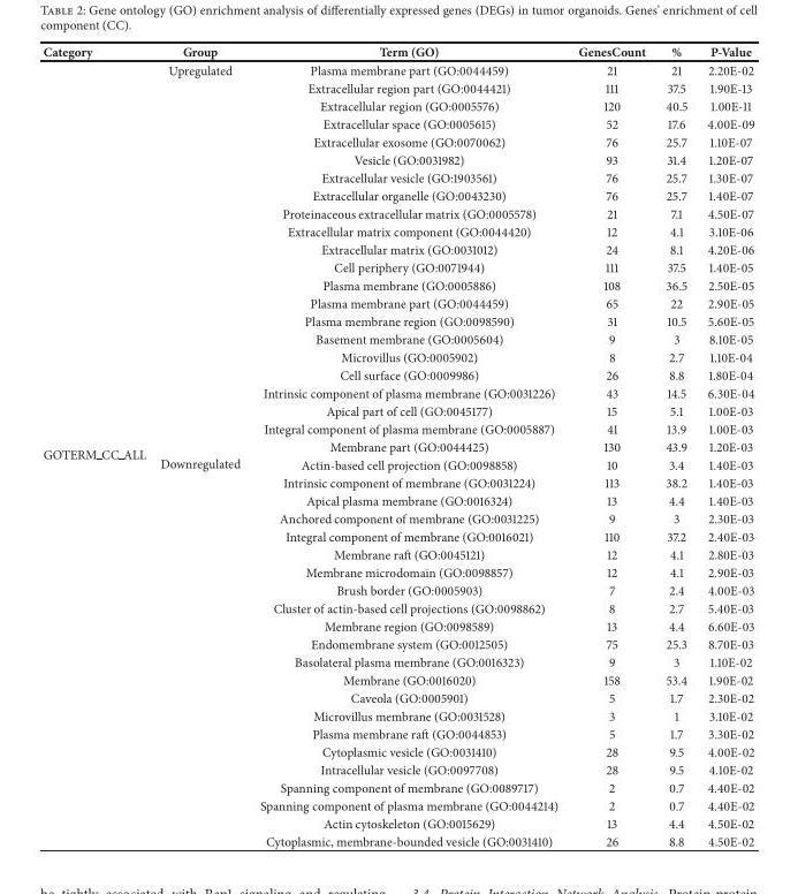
<table><thead><tr><td>Category</td><td>Group</td><td>Term (GO)</td><td>GenesCount</td><td>%</td><td>P-Value</td></tr></thead><tbody><tr><td rowspan="44">GOTERM <sub>CC</sub> ALL</td><td>Upregulated</td><td>Plasma membrane part (GO:0044459)</td><td>21</td><td>21</td><td>2.20E-02</td></tr><tr><td rowspan="43">Downregulated</td><td>Extracellular region part (GO:0044421)</td><td>111</td><td>37.5</td><td>1.90E-13</td></tr><tr><td>Extracellular region (GO:0005576)</td><td>120</td><td>40.5</td><td>1.00E-11</td></tr><tr><td>Extracellular space (GO:0005615)</td><td>52</td><td>17.6</td><td>4.00E-09</td></tr><tr><td>Extracellular exosome (GO:0070062)</td><td>76</td><td>25.7</td><td>1.10E-07</td></tr><tr><td>Vesicle (GO:0031982)</td><td>93</td><td>31.4</td><td>1.20E-07</td></tr><tr><td>Extracellular vesicle (GO:1903561)</td><td>76</td><td>25.7</td><td>1.30E-07</td></tr><tr><td>Extracellular organelle (GO:0043230)</td><td>76</td><td>25.7</td><td>1.40E-07</td></tr><tr><td>Proteinaceous extracellular matrix (GO:0005578)</td><td>21</td><td>7.1</td><td>4.50E-07</td></tr><tr><td>Extracellular matrix component (GO:0044420)</td><td>12</td><td>4.1</td><td>3.10E-06</td></tr><tr><td>Extracellular matrix (GO:0031012)</td><td>24</td><td>8.1</td><td>4.20E-06</td></tr><tr><td>Cell periphery (GO:0071944)</td><td>111</td><td>37.5</td><td>1.40E-05</td></tr><tr><td>Plasma membrane (GO:0005886)</td><td>108</td><td>36.5</td><td>2.50E-05</td></tr><tr><td>Plasma membrane part (GO:0044459)</td><td>65</td><td>22</td><td>2.90E-05</td></tr><tr><td>Plasma membrane region (GO:0098590)</td><td>31</td><td>10.5</td><td>5.60E-05</td></tr><tr><td>Basement membrane (GO:0005604)</td><td>9</td><td>3</td><td>8.10E-05</td></tr><tr><td>Microvillus (GO:0005902)</td><td>8</td><td>2.7</td><td>1.10E-04</td></tr><tr><td>Cell surface (GO:0009986)</td><td>26</td><td>8.8</td><td>1.80E-04</td></tr><tr><td>Intrinsic component of plasma membrane (GO:0031226)</td><td>43</td><td>14.5</td><td>6.30E-04</td></tr><tr><td>Apical part of cell (GO:0045177)</td><td>15</td><td>5.1</td><td>1.00E-03</td></tr><tr><td>Integral component of plasma membrane (GO:0005887)</td><td>41</td><td>13.9</td><td>1.00E-03</td></tr><tr><td>Membrane part (GO:0044425)</td><td>130</td><td>43.9</td><td>1.20E-03</td></tr><tr><td>Actin-based cell projection (GO:0098858)</td><td>10</td><td>3.4</td><td>1.40E-03</td></tr><tr><td>Intrinsic component of membrane (GO:0031224)</td><td>113</td><td>38.2</td><td>1.40E-03</td></tr><tr><td>Apical plasma membrane (GO:0016324)</td><td>13</td><td>4.4</td><td>1.40E-03</td></tr><tr><td>Anchored component of membrane (GO:0031225)</td><td>9</td><td>3</td><td>2.30E-03</td></tr><tr><td>Integral component of membrane (GO:0016021)</td><td>110</td><td>37.2</td><td>2.40E-03</td></tr><tr><td>Membrane raft (GO:0045121)</td><td>12</td><td>4.1</td><td>2.80E-03</td></tr><tr><td>Membrane microdomain (GO:0098857)</td><td>12</td><td>4.1</td><td>2.90E-03</td></tr><tr><td>Brush border (GO:0005903)</td><td>7</td><td>2.4</td><td>4.00E-03</td></tr><tr><td>Cluster of actin-based cell projections (GO:0098862)</td><td>8</td><td>2.7</td><td>5.40E-03</td></tr><tr><td>Membrane region (GO:0098589)</td><td>13</td><td>4.4</td><td>6.60E-03</td></tr><tr><td>Endomembrane system (GO:0012505)</td><td>75</td><td>25.3</td><td>8.70E-03</td></tr><tr><td>Basolateral plasma membrane (GO:0016323)</td><td>9</td><td>3</td><td>1.10E-02</td></tr><tr><td>Membrane (GO:0016020)</td><td>158</td><td>53.4</td><td>1.90E-02</td></tr><tr><td>Caveola (GO:0005901)</td><td>5</td><td>1.7</td><td>2.30E-02</td></tr><tr><td>Microvillus membrane (GO:0031528)</td><td>3</td><td>1</td><td>3.10E-02</td></tr><tr><td>Plasma membrane raft (GO:0044853)</td><td>5</td><td>1.7</td><td>3.30E-02</td></tr><tr><td>Cytoplasmic vesicle (GO:0031410)</td><td>28</td><td>9.5</td><td>4.00E-02</td></tr><tr><td>Intracellular vesicle (GO:0097708)</td><td>28</td><td>9.5</td><td>4.10E-02</td></tr><tr><td>Spanning component of membrane (GO:0089717)</td><td>2</td><td>0.7</td><td>4.40E-02</td></tr><tr><td>Spanning component of plasma membrane (GO:0044214)</td><td>2</td><td>0.7</td><td>4.40E-02</td></tr><tr><td>Actin cytoskeleton (GO:0015629)</td><td>13</td><td>4.4</td><td>4.50E-02</td></tr><tr><td>Cytoplasmic, membrane-bounded vesicle (GO:0031410)</td><td>26</td><td>8.8</td><td>4.50E-02</td></tr></tbody></table>